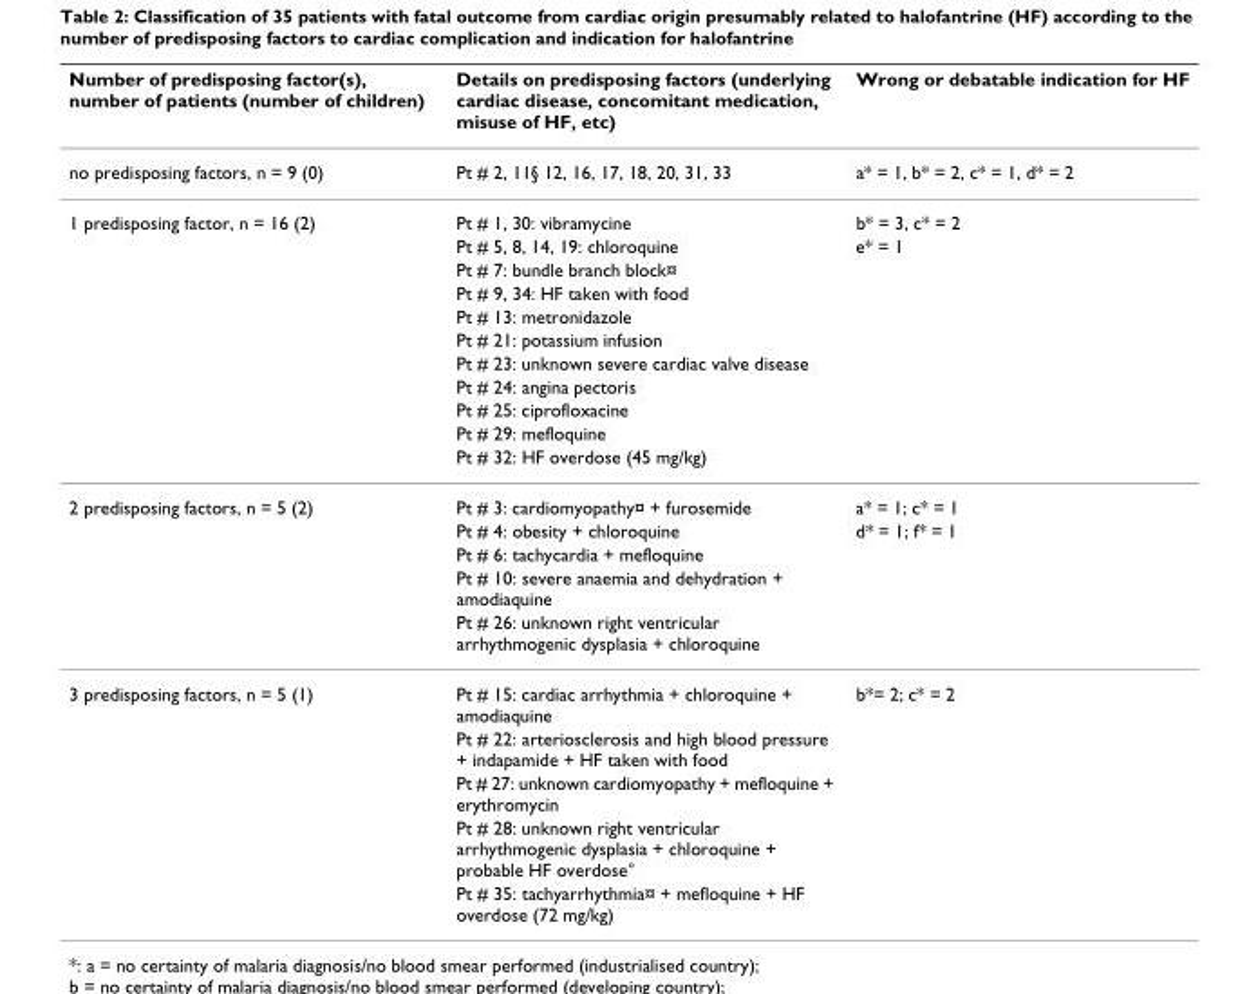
<table><thead><tr><td>Number of predisposing factor(s), number of patients (number of children)</td><td>Details on predisposing factors (underlying cardiac disease, concomitant medication, misuse of HF, etc)</td><td>Wrong or debatable indication for HF</td></tr></thead><tbody><tr><td>no predisposing factors, n = 9 (0)</td><td>Pt # 2, 11§ 12, 16, 17, 18, 20, 31, 33</td><td>a* = 1, b* = 2, c* = 1, d* = 2</td></tr><tr><td rowspan="11">1 predisposing factor, n = 16 (2)</td><td>Pt # 1, 30: vibramycine</td><td>b* = 3, c* = 2</td></tr><tr><td>Pt # 5, 8, 14, 19: chloroquine</td><td>e* = 1</td></tr><tr><td>Pt # 7: bundle branch block¤</td><td></td></tr><tr><td>Pt # 9, 34: HF taken with food</td><td></td></tr><tr><td>Pt # 13: metronidazole</td><td></td></tr><tr><td>Pt # 21: potassium infusion</td><td></td></tr><tr><td>Pt # 23: unknown severe cardiac valve disease</td><td></td></tr><tr><td>Pt # 24: angina pectoris</td><td></td></tr><tr><td>Pt # 25: ciprofloxacine</td><td></td></tr><tr><td>Pt # 29: mefloquine</td><td></td></tr><tr><td>Pt # 32: HF overdose (45 mg/kg)</td><td></td></tr><tr><td rowspan="5">2 predisposing factors, n = 5 (2)</td><td>Pt # 3: cardiomyopathy¤ + furosemide</td><td>a* = 1; c* = 1</td></tr><tr><td>Pt # 4: obesity + chloroquine</td><td>d* = 1; f* = 1</td></tr><tr><td>Pt # 6: tachycardia + mefloquine</td><td></td></tr><tr><td>Pt # 10: severe anaemia and dehydration + amodiaquine</td><td></td></tr><tr><td>Pt # 26: unknown right ventricular arrhythmogenic dysplasia + chloroquine</td><td></td></tr><tr><td rowspan="5">3 predisposing factors, n = 5 (1)</td><td>Pt # 15: cardiac arrhythmia + chloroquine + amodiaquine</td><td>b*= 2; c* = 2</td></tr><tr><td>Pt # 22: arteriosclerosis and high blood pressure + indapamide + HF taken with food</td><td></td></tr><tr><td>Pt # 27: unknown cardiomyopathy + mefloquine + erythromycin</td><td></td></tr><tr><td>Pt # 28: unknown right ventricular arrhythmogenic dysplasia + chloroquine + probable HF overdose°</td><td></td></tr><tr><td>Pt # 35: tachyarrhythmia¤ + mefloquine + HF overdose (72 mg/kg)</td><td></td></tr></tbody></table>